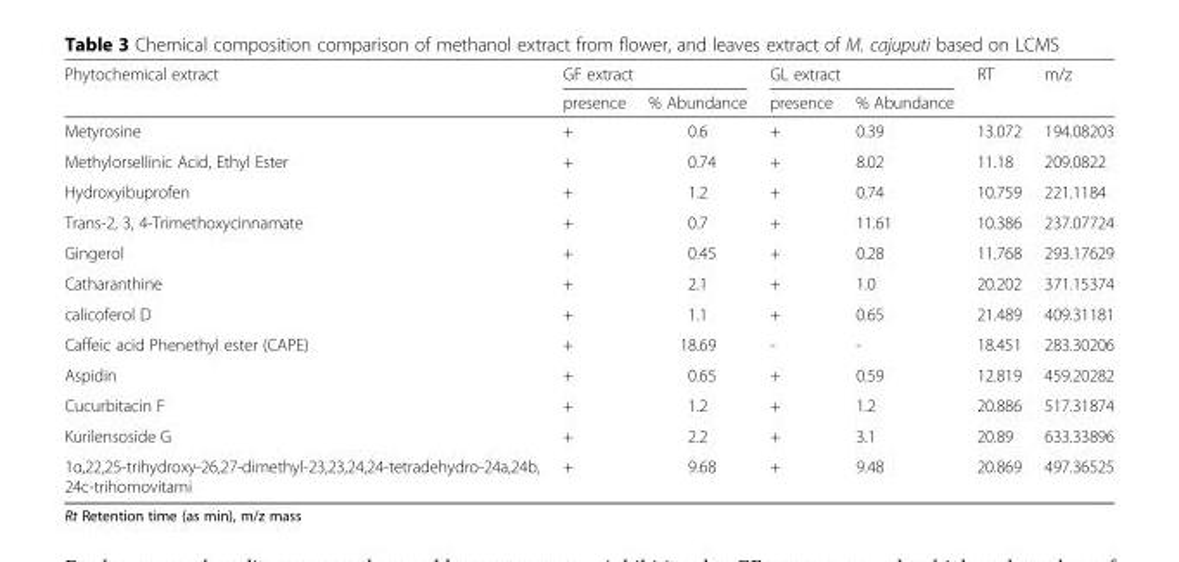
<table><thead><tr><td rowspan="2">Phytochemical extract</td><td colspan="2">GF extract</td><td colspan="2">GL extract</td><td rowspan="2">RT</td><td rowspan="2">m/z</td></tr><tr><td>presence</td><td>% Abundance</td><td>presence</td><td>% Abundance</td></tr></thead><tbody><tr><td>Metyrosine</td><td>+</td><td>0.6</td><td>+</td><td>0.39</td><td>13.072</td><td>194.08203</td></tr><tr><td>Methylorsellinic Acid, Ethyl Ester</td><td>+</td><td>0.74</td><td>+</td><td>8.02</td><td>11.18</td><td>209.0822</td></tr><tr><td>Hydroxyibuprofen</td><td>+</td><td>1.2</td><td>+</td><td>0.74</td><td>10.759</td><td>221.1184</td></tr><tr><td>Trans-2, 3, 4-Trimethoxycinnamate</td><td>+</td><td>0.7</td><td>+</td><td>11.61</td><td>10.386</td><td>237.07724</td></tr><tr><td>Gingerol</td><td>+</td><td>0.45</td><td>+</td><td>0.28</td><td>11.768</td><td>293.17629</td></tr><tr><td>Catharanthine</td><td>+</td><td>2.1</td><td>+</td><td>1.0</td><td>20.202</td><td>371.15374</td></tr><tr><td>calicoferol D</td><td>+</td><td>1.1</td><td>+</td><td>0.65</td><td>21.489</td><td>409.31181</td></tr><tr><td>Caffeic acid Phenethyl ester (CAPE)</td><td>+</td><td>18.69</td><td>-</td><td>-</td><td>18.451</td><td>283.30206</td></tr><tr><td>Aspidin</td><td>+</td><td>0.65</td><td>+</td><td>0.59</td><td>12.819</td><td>459.20282</td></tr><tr><td>Cucurbitacin F</td><td>+</td><td>1.2</td><td>+</td><td>1.2</td><td>20.886</td><td>517.31874</td></tr><tr><td>Kurilensoside G</td><td>+</td><td>2.2</td><td>+</td><td>3.1</td><td>20.89</td><td>633.33896</td></tr><tr><td>1α,22,25-trihydroxy-26,27-dimethyl-23,23,24,24-tetradehydro-24a,24b, 24c-trihomovitami</td><td>+</td><td>9.68</td><td>+</td><td>9.48</td><td>20.869</td><td>497.36525</td></tr></tbody></table>